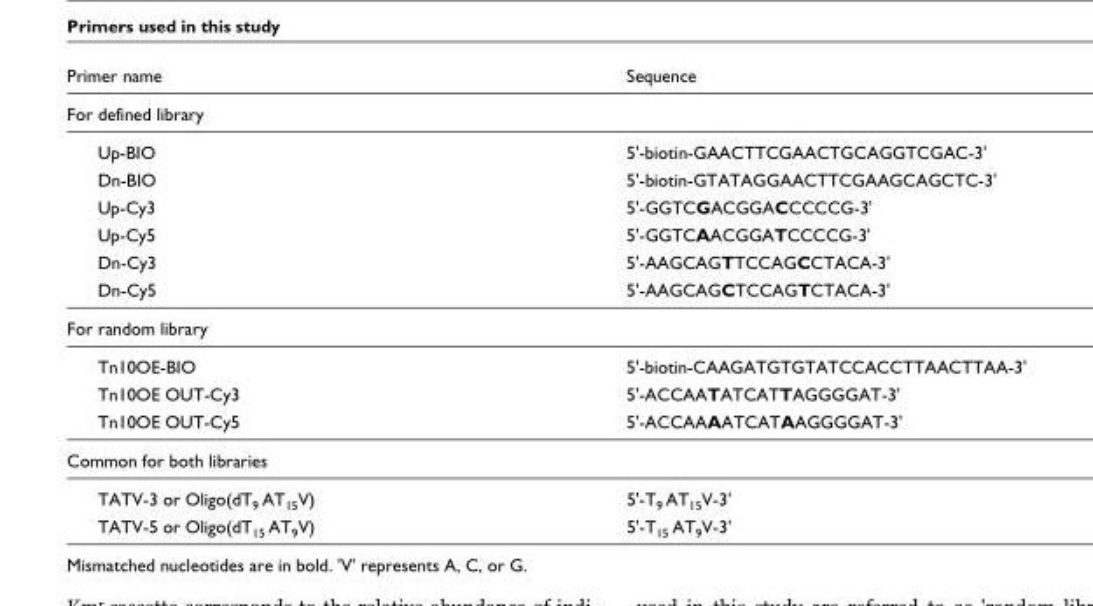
<table><thead><tr><td>Primer name</td><td>Sequence</td></tr></thead><tbody><tr><td colspan="2">For defined library</td></tr><tr><td>Up-BIO</td><td>5&#x27;-biotin-GAACTTCGAACTGCAGGTCGAC-3&#x27;</td></tr><tr><td>Dn-BIO</td><td>5&#x27;-biotin-GTATAGGAACTTCGAAGCAGCTC-3&#x27;</td></tr><tr><td>Up-Cy3</td><td>5&#x27;-GGTCGACGGACCCCCG-3&#x27;</td></tr><tr><td>Up-Cy5</td><td>5&#x27;-GGTCAACGGATCCCCG-3&#x27;</td></tr><tr><td>Dn-Cy3</td><td>5&#x27;-AAGCAGTTCCAGCCTACA-3&#x27;</td></tr><tr><td>Dn-Cy5</td><td>5&#x27;-AAGCAGCTCCAGTCTACA-3&#x27;</td></tr><tr><td colspan="2">For random library</td></tr><tr><td>Tn10OE-BIO</td><td>5&#x27;-biotin-CAAGATGTGTATCCACCTTAACTTAA-3&#x27;</td></tr><tr><td>Tn10OE OUT-Cy3</td><td>5&#x27;-ACCAATATCATTAGGGGAT-3&#x27;</td></tr><tr><td>Tn10OE OUT-Cy5</td><td>5&#x27;-ACCAAAATCATAAGGGGAT-3&#x27;</td></tr><tr><td colspan="2">Common for both libraries</td></tr><tr><td>TATV-3 or Oligo(dT<sub>9</sub> AT<sub>15</sub>V)</td><td>5&#x27;-T<sub>9</sub> AT<sub>15</sub>V-3&#x27;</td></tr><tr><td>TATV-5 or Oligo(dT<sub>15</sub> AT<sub>9</sub>V)</td><td>5&#x27;-T<sub>15</sub> AT<sub>9</sub>V-3&#x27;</td></tr></tbody></table>